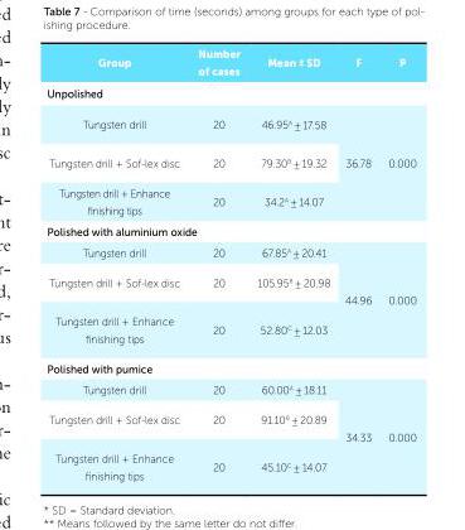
<table><thead><tr><td>Group</td><td>Number of cases</td><td>Mean ± SD</td><td>F</td><td>P</td></tr></thead><tbody><tr><td colspan="5">Unpolished</td></tr><tr><td>Tungsten drill</td><td>20</td><td>46.95<sup>A</sup> ± 17.58</td><td rowspan="3">36.78</td><td rowspan="3">0.000</td></tr><tr><td>Tungsten drill + Sof-lex disc</td><td>20</td><td>79.30<sup>B</sup> ± 19.32</td></tr><tr><td>Tungsten drill + Enhance finishing tips</td><td>20</td><td>34.2<sup>A</sup> ± 14.07</td></tr><tr><td colspan="5">Polished with aluminium oxide</td></tr><tr><td>Tungsten drill</td><td>20</td><td>67.85<sup>A</sup> ± 20.41</td><td rowspan="3">44.96</td><td rowspan="3">0.000</td></tr><tr><td>Tungsten drill + Sof-lex disc</td><td>20</td><td>105.95<sup>B</sup> ± 20.98</td></tr><tr><td>Tungsten drill + Enhance finishing tips</td><td>20</td><td>52.80<sup>C</sup> ± 12.03</td></tr><tr><td colspan="5">Polished with pumice</td></tr><tr><td>Tungsten drill</td><td>20</td><td>60.00<sup>A</sup> ± 18.11</td><td rowspan="3">34.33</td><td rowspan="3">0.000</td></tr><tr><td>Tungsten drill + Sof-lex disc</td><td>20</td><td>91.10<sup>B</sup> ± 20.89</td></tr><tr><td>Tungsten drill + Enhance finishing tips</td><td>20</td><td>45.10<sup>C</sup> ± 14.07</td></tr></tbody></table>